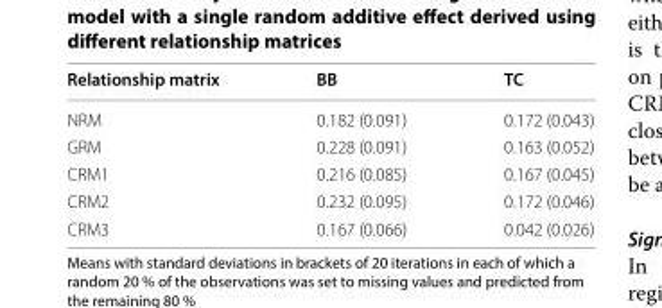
<table><thead><tr><td>Relationship matrix</td><td>BB</td><td>TC</td></tr></thead><tbody><tr><td>NRM</td><td>0.182 (0.091)</td><td>0.172 (0.043)</td></tr><tr><td>GRM</td><td>0.228 (0.091)</td><td>0.163 (0.052)</td></tr><tr><td>CRM1</td><td>0.216 (0.085)</td><td>0.167 (0.045)</td></tr><tr><td>CRM2</td><td>0.232 (0.095)</td><td>0.172 (0.046)</td></tr><tr><td>CRM3</td><td>0.167 (0.066)</td><td>0.042 (0.026)</td></tr></tbody></table>